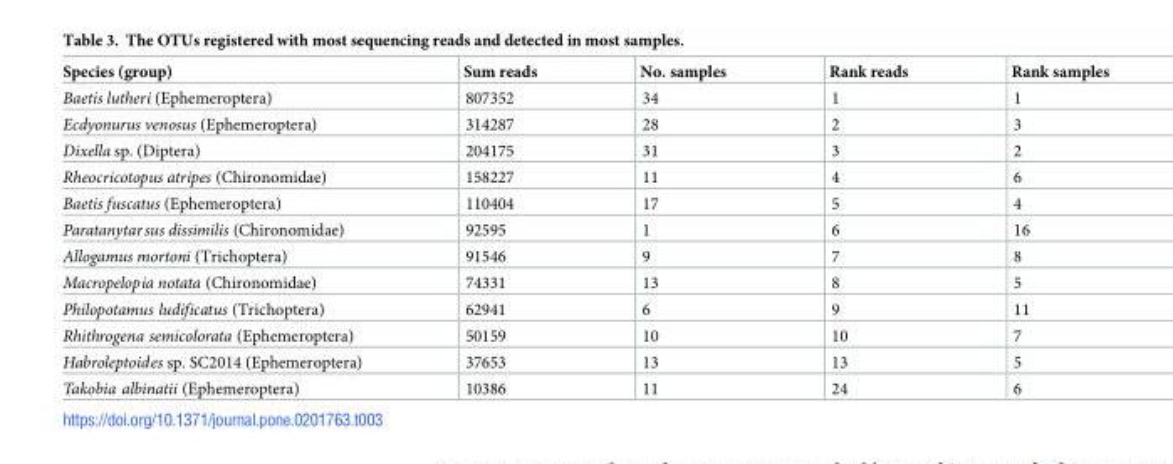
<table><thead><tr><td>Species (group)</td><td>Sum reads</td><td>No. samples</td><td>Rank reads</td><td>Rank samples</td></tr></thead><tbody><tr><td>Baetis lutheri (Ephemeroptera)</td><td>807352</td><td>34</td><td>1</td><td>1</td></tr><tr><td>Ecdyonurus venosus (Ephemeroptera)</td><td>314287</td><td>28</td><td>2</td><td>3</td></tr><tr><td>Dixella sp. (Diptera)</td><td>204175</td><td>31</td><td>3</td><td>2</td></tr><tr><td>Rheocricotopus atripes (Chironomidae)</td><td>158227</td><td>11</td><td>4</td><td>6</td></tr><tr><td>Baetis fuscatus (Ephemeroptera)</td><td>110404</td><td>17</td><td>5</td><td>4</td></tr><tr><td>Paratanytarsus dissimilis (Chironomidae)</td><td>92595</td><td>1</td><td>6</td><td>16</td></tr><tr><td>Allogamus mortoni (Trichoptera)</td><td>91546</td><td>9</td><td>7</td><td>8</td></tr><tr><td>Macropelopia notata (Chironomidae)</td><td>74331</td><td>13</td><td>8</td><td>5</td></tr><tr><td>Philopotamus ludificatus (Trichoptera)</td><td>62941</td><td>6</td><td>9</td><td>11</td></tr><tr><td>Rhithrogena semicolorata (Ephemeroptera)</td><td>50159</td><td>10</td><td>10</td><td>7</td></tr><tr><td>Habroleptoides sp. SC2014 (Ephemeroptera)</td><td>37653</td><td>13</td><td>13</td><td>5</td></tr><tr><td>Takobia albinatii (Ephemeroptera)</td><td>10386</td><td>11</td><td>24</td><td>6</td></tr></tbody></table>